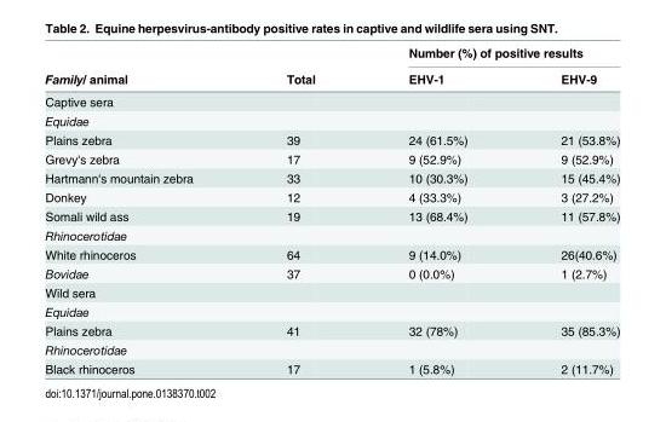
<table><thead><tr><td rowspan="2">Family/ animal</td><td rowspan="2">Total</td><td colspan="2">Number (%) of positive results</td></tr><tr><td>EHV-1</td><td>EHV-9</td></tr></thead><tbody><tr><td colspan="4">Captive sera</td></tr><tr><td colspan="4">Equidae</td></tr><tr><td>Plains zebra</td><td>39</td><td>24 (61.5%)</td><td>21 (53.8%)</td></tr><tr><td>Grevy&#x27;s zebra</td><td>17</td><td>9 (52.9%)</td><td>9 (52.9%)</td></tr><tr><td>Hartmann&#x27;s mountain zebra</td><td>33</td><td>10 (30.3%)</td><td>15 (45.4%)</td></tr><tr><td>Donkey</td><td>12</td><td>4 (33.3%)</td><td>3 (27.2%)</td></tr><tr><td>Somali wild ass</td><td>19</td><td>13 (68.4%)</td><td>11 (57.8%)</td></tr><tr><td colspan="4">Rhinocerotidae</td></tr><tr><td>White rhinoceros</td><td>64</td><td>9 (14.0%)</td><td>26(40.6%)</td></tr><tr><td>Bovidae</td><td>37</td><td>0 (0.0%)</td><td>1 (2.7%)</td></tr><tr><td colspan="4">Wild sera</td></tr><tr><td colspan="4">Equidae</td></tr><tr><td>Plains zebra</td><td>41</td><td>32 (78%)</td><td>35 (85.3%)</td></tr><tr><td colspan="4">Rhinocerotidae</td></tr><tr><td>Black rhinoceros</td><td>17</td><td>1 (5.8%)</td><td>2 (11.7%)</td></tr></tbody></table>